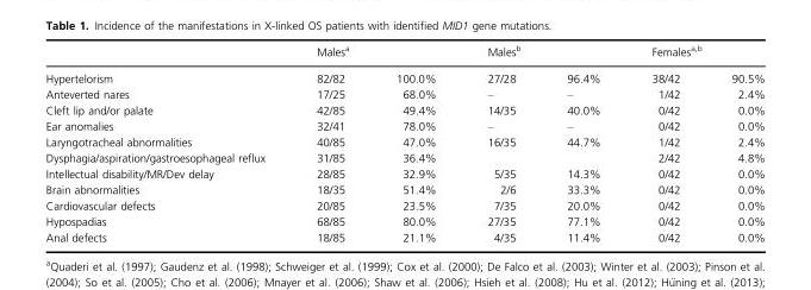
<table><thead><tr><td rowspan="2">Hypertelorism</td><td colspan="2">Males<sup>a</sup></td><td colspan="2">Males<sup>b</sup></td><td colspan="2">Females<sup>a,</sup>b</td></tr><tr><td>82/82</td><td>100.0%</td><td>27/28</td><td>96.4%</td><td>38/42</td><td>90.5%</td></tr></thead><tbody><tr><td>Anteverted nares</td><td>17/25</td><td>68.0%</td><td>–</td><td>–</td><td>1/42</td><td>2.4%</td></tr><tr><td>Cleft lip and/or palate</td><td>42/85</td><td>49.4%</td><td>14/35</td><td>40.0%</td><td>0/42</td><td>0.0%</td></tr><tr><td>Ear anomalies</td><td>32/41</td><td>78.0%</td><td>–</td><td>–</td><td>0/42</td><td>0.0%</td></tr><tr><td>Laryngotracheal abnormalities</td><td>40/85</td><td>47.0%</td><td rowspan="2">16/35</td><td rowspan="2">44.7%</td><td>1/42</td><td>2.4%</td></tr><tr><td>Dysphagia/aspiration/gastroesophageal reflux</td><td>31/85</td><td>36.4%</td><td>2/42</td><td>4.8%</td></tr><tr><td>Intellectual disability/MR/Dev delay</td><td>28/85</td><td>32.9%</td><td>5/35</td><td>14.3%</td><td>0/42</td><td>0.0%</td></tr><tr><td>Brain abnormalities</td><td>18/35</td><td>51.4%</td><td>2/6</td><td>33.3%</td><td>0/42</td><td>0.0%</td></tr><tr><td>Cardiovascular defects</td><td>20/85</td><td>23.5%</td><td>7/35</td><td>20.0%</td><td>0/42</td><td>0.0%</td></tr><tr><td>Hypospadias</td><td>68/85</td><td>80.0%</td><td>27/35</td><td>77.1%</td><td>0/42</td><td>0.0%</td></tr><tr><td>Anal defects</td><td>18/85</td><td>21.1%</td><td>4/35</td><td>11.4%</td><td>0/42</td><td>0.0%</td></tr></tbody></table>